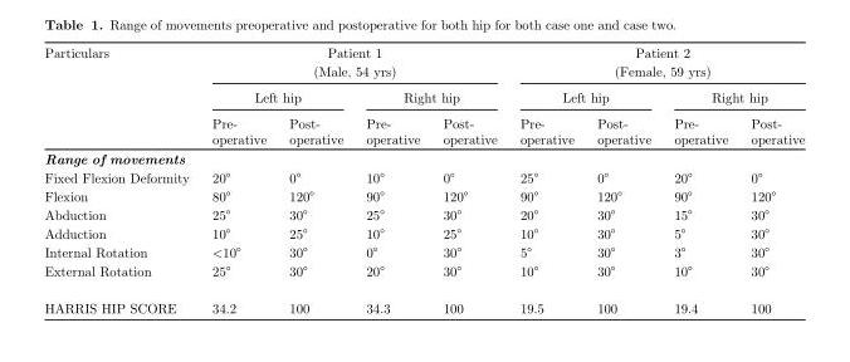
<table><thead><tr><td rowspan="4">Particulars</td><td rowspan="2" colspan="4">Patient 1 (Male, 54 yrs)</td><td rowspan="2" colspan="4">Patient 2 (Female, 59 yrs)</td></tr><tr></tr><tr><td colspan="2">Left hip</td><td colspan="2">Right hip</td><td colspan="2">Left hip</td><td colspan="2">Right hip</td></tr><tr><td>Pre- operative</td><td>Post- operative</td><td>Pre- operative</td><td>Post- operative</td><td>Pre- operative</td><td>Post- operative</td><td>Pre- operative</td><td>Post- operative</td></tr></thead><tbody><tr><td colspan="9">Range of movements</td></tr><tr><td>Fixed Flexion Deformity</td><td>20°</td><td>0°</td><td>10°</td><td>0°</td><td>25°</td><td>0°</td><td>20°</td><td>0°</td></tr><tr><td>Flexion</td><td>80°</td><td>120°</td><td>90°</td><td>120°</td><td>90°</td><td>120°</td><td>90°</td><td>120°</td></tr><tr><td>Abduction</td><td>25°</td><td>30°</td><td>25°</td><td>30°</td><td>20°</td><td>30°</td><td>15°</td><td>30°</td></tr><tr><td>Adduction</td><td>10°</td><td>25°</td><td>10°</td><td>25°</td><td>10°</td><td>30°</td><td>5°</td><td>30°</td></tr><tr><td>Internal Rotation</td><td>&lt;10°</td><td>30°</td><td>0°</td><td>30°</td><td>5°</td><td>30°</td><td>3°</td><td>30°</td></tr><tr><td>External Rotation</td><td>25°</td><td>30°</td><td>20°</td><td>30°</td><td>10°</td><td>30°</td><td>10°</td><td>30°</td></tr><tr><td>HARRIS HIP SCORE</td><td>34.2</td><td>100</td><td>34.3</td><td>100</td><td>19.5</td><td>100</td><td>19.4</td><td>100</td></tr></tbody></table>